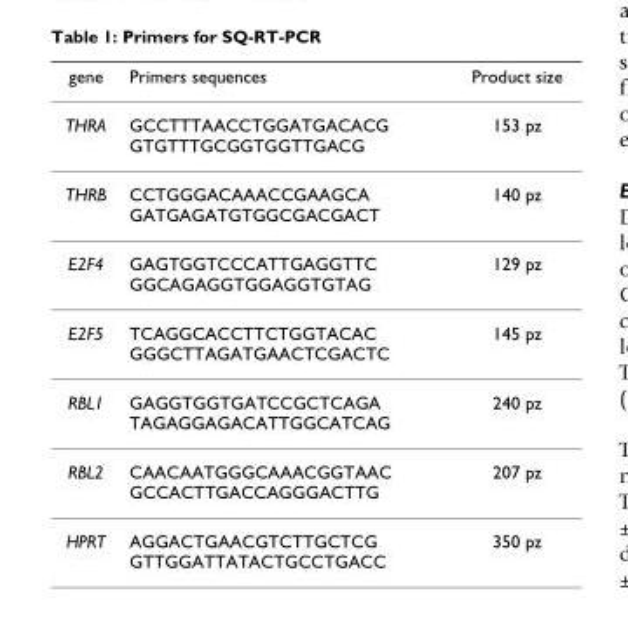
<table><thead><tr><td>gene</td><td>Primers sequences</td><td>Product size</td></tr></thead><tbody><tr><td>THRA</td><td>GCCTTTAACCTGGATGACACG GTGTTTGCGGTGGTTGACG</td><td>153 pz</td></tr><tr><td>THRB</td><td>CCTGGGACAAACCGAAGCA GATGAGATGTGGCGACGACT</td><td>140 pz</td></tr><tr><td>E2F4</td><td>GAGTGGTCCCATTGAGGTTC GGCAGAGGTGGAGGTGTAG</td><td>129 pz</td></tr><tr><td>E2F5</td><td>TCAGGCACCTTCTGGTACAC GGGCTTAGATGAACTCGACTC</td><td>145 pz</td></tr><tr><td>RBL1</td><td>GAGGTGGTGATCCGCTCAGA TAGAGGAGACATTGGCATCAG</td><td>240 pz</td></tr><tr><td>RBL2</td><td>CAACAATGGGCAAACGGTAAC GCCACTTGACCAGGGACTTG</td><td>207 pz</td></tr><tr><td>HPRT</td><td>AGGACTGAACGTCTTGCTCG GTTGGATTATACTGCCTGACC</td><td>350 pz</td></tr></tbody></table>